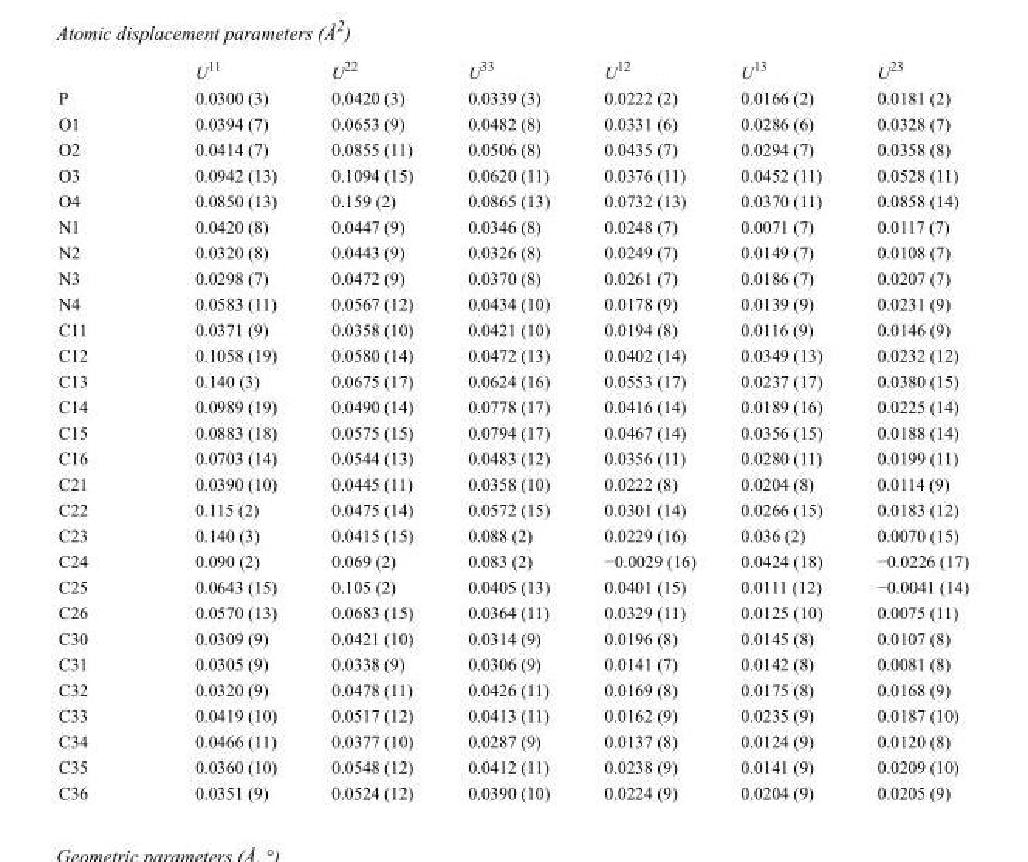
<table><thead><tr><td></td><td>U<sup>11</sup></td><td>U<sup>22</sup></td><td>U<sup>33</sup></td><td>U<sup>12</sup></td><td>U<sup>13</sup></td><td>U<sup>23</sup></td></tr></thead><tbody><tr><td>P</td><td>0.0300 (3)</td><td>0.0420 (3)</td><td>0.0339 (3)</td><td>0.0222 (2)</td><td>0.0166 (2)</td><td>0.0181 (2)</td></tr><tr><td>O1</td><td>0.0394 (7)</td><td>0.0653 (9)</td><td>0.0482 (8)</td><td>0.0331 (6)</td><td>0.0286 (6)</td><td>0.0328 (7)</td></tr><tr><td>O2</td><td>0.0414 (7)</td><td>0.0855 (11)</td><td>0.0506 (8)</td><td>0.0435 (7)</td><td>0.0294 (7)</td><td>0.0358 (8)</td></tr><tr><td>O3</td><td>0.0942 (13)</td><td>0.1094 (15)</td><td>0.0620 (11)</td><td>0.0376 (11)</td><td>0.0452 (11)</td><td>0.0528 (11)</td></tr><tr><td>O4</td><td>0.0850 (13)</td><td>0.159 (2)</td><td>0.0865 (13)</td><td>0.0732 (13)</td><td>0.0370 (11)</td><td>0.0858 (14)</td></tr><tr><td>N1</td><td>0.0420 (8)</td><td>0.0447 (9)</td><td>0.0346 (8)</td><td>0.0248 (7)</td><td>0.0071 (7)</td><td>0.0117 (7)</td></tr><tr><td>N2</td><td>0.0320 (8)</td><td>0.0443 (9)</td><td>0.0326 (8)</td><td>0.0249 (7)</td><td>0.0149 (7)</td><td>0.0108 (7)</td></tr><tr><td>N3</td><td>0.0298 (7)</td><td>0.0472 (9)</td><td>0.0370 (8)</td><td>0.0261 (7)</td><td>0.0186 (7)</td><td>0.0207 (7)</td></tr><tr><td>N4</td><td>0.0583 (11)</td><td>0.0567 (12)</td><td>0.0434 (10)</td><td>0.0178 (9)</td><td>0.0139 (9)</td><td>0.0231 (9)</td></tr><tr><td>C11</td><td>0.0371 (9)</td><td>0.0358 (10)</td><td>0.0421 (10)</td><td>0.0194 (8)</td><td>0.0116 (9)</td><td>0.0146 (9)</td></tr><tr><td>C12</td><td>0.1058 (19)</td><td>0.0580 (14)</td><td>0.0472 (13)</td><td>0.0402 (14)</td><td>0.0349 (13)</td><td>0.0232 (12)</td></tr><tr><td>C13</td><td>0.140 (3)</td><td>0.0675 (17)</td><td>0.0624 (16)</td><td>0.0553 (17)</td><td>0.0237 (17)</td><td>0.0380 (15)</td></tr><tr><td>C14</td><td>0.0989 (19)</td><td>0.0490 (14)</td><td>0.0778 (17)</td><td>0.0416 (14)</td><td>0.0189 (16)</td><td>0.0225 (14)</td></tr><tr><td>C15</td><td>0.0883 (18)</td><td>0.0575 (15)</td><td>0.0794 (17)</td><td>0.0467 (14)</td><td>0.0356 (15)</td><td>0.0188 (14)</td></tr><tr><td>C16</td><td>0.0703 (14)</td><td>0.0544 (13)</td><td>0.0483 (12)</td><td>0.0356 (11)</td><td>0.0280 (11)</td><td>0.0199 (11)</td></tr><tr><td>C21</td><td>0.0390 (10)</td><td>0.0445 (11)</td><td>0.0358 (10)</td><td>0.0222 (8)</td><td>0.0204 (8)</td><td>0.0114 (9)</td></tr><tr><td>C22</td><td>0.115 (2)</td><td>0.0475 (14)</td><td>0.0572 (15)</td><td>0.0301 (14)</td><td>0.0266 (15)</td><td>0.0183 (12)</td></tr><tr><td>C23</td><td>0.140 (3)</td><td>0.0415 (15)</td><td>0.088 (2)</td><td>0.0229 (16)</td><td>0.036 (2)</td><td>0.0070 (15)</td></tr><tr><td>C24</td><td>0.090 (2)</td><td>0.069 (2)</td><td>0.083 (2)</td><td>−0.0029 (16)</td><td>0.0424 (18)</td><td>−0.0226 (17)</td></tr><tr><td>C25</td><td>0.0643 (15)</td><td>0.105 (2)</td><td>0.0405 (13)</td><td>0.0401 (15)</td><td>0.0111 (12)</td><td>−0.0041 (14)</td></tr><tr><td>C26</td><td>0.0570 (13)</td><td>0.0683 (15)</td><td>0.0364 (11)</td><td>0.0329 (11)</td><td>0.0125 (10)</td><td>0.0075 (11)</td></tr><tr><td>C30</td><td>0.0309 (9)</td><td>0.0421 (10)</td><td>0.0314 (9)</td><td>0.0196 (8)</td><td>0.0145 (8)</td><td>0.0107 (8)</td></tr><tr><td>C31</td><td>0.0305 (9)</td><td>0.0338 (9)</td><td>0.0306 (9)</td><td>0.0141 (7)</td><td>0.0142 (8)</td><td>0.0081 (8)</td></tr><tr><td>C32</td><td>0.0320 (9)</td><td>0.0478 (11)</td><td>0.0426 (11)</td><td>0.0169 (8)</td><td>0.0175 (8)</td><td>0.0168 (9)</td></tr><tr><td>C33</td><td>0.0419 (10)</td><td>0.0517 (12)</td><td>0.0413 (11)</td><td>0.0162 (9)</td><td>0.0235 (9)</td><td>0.0187 (10)</td></tr><tr><td>C34</td><td>0.0466 (11)</td><td>0.0377 (10)</td><td>0.0287 (9)</td><td>0.0137 (8)</td><td>0.0124 (9)</td><td>0.0120 (8)</td></tr><tr><td>C35</td><td>0.0360 (10)</td><td>0.0548 (12)</td><td>0.0412 (11)</td><td>0.0238 (9)</td><td>0.0141 (9)</td><td>0.0209 (10)</td></tr><tr><td>C36</td><td>0.0351 (9)</td><td>0.0524 (12)</td><td>0.0390 (10)</td><td>0.0224 (9)</td><td>0.0204 (9)</td><td>0.0205 (9)</td></tr></tbody></table>